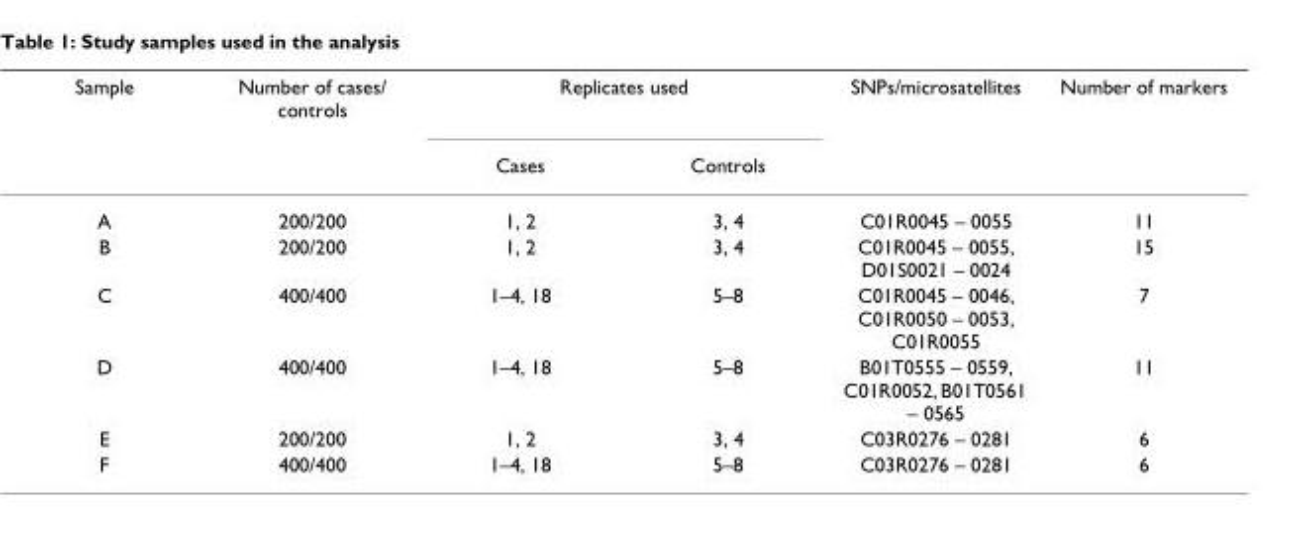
<table><thead><tr><td rowspan="2">Sample</td><td rowspan="2">Number of cases/ controls</td><td colspan="2">Replicates used</td><td rowspan="2">SNPs/microsatellites</td><td rowspan="2">Number of markers</td></tr><tr><td>Cases</td><td>Controls</td></tr></thead><tbody><tr><td>A</td><td>200/200</td><td>1, 2</td><td>3, 4</td><td>C01R0045 – 0055</td><td>11</td></tr><tr><td>B</td><td>200/200</td><td>1, 2</td><td>3, 4</td><td>C01R0045 – 0055, D01S0021 – 0024</td><td>15</td></tr><tr><td>C</td><td>400/400</td><td>1–4, 18</td><td>5–8</td><td>C01R0045 – 0046, C01R0050 – 0053, C01R0055</td><td>7</td></tr><tr><td>D</td><td>400/400</td><td>1–4, 18</td><td>5–8</td><td>B01T0555 – 0559, C01R0052, B01T0561 – 0565</td><td>11</td></tr><tr><td>E</td><td>200/200</td><td>1, 2</td><td>3, 4</td><td>C03R0276 – 0281</td><td>6</td></tr><tr><td>F</td><td>400/400</td><td>1–4, 18</td><td>5–8</td><td>C03R0276 – 0281</td><td>6</td></tr></tbody></table>